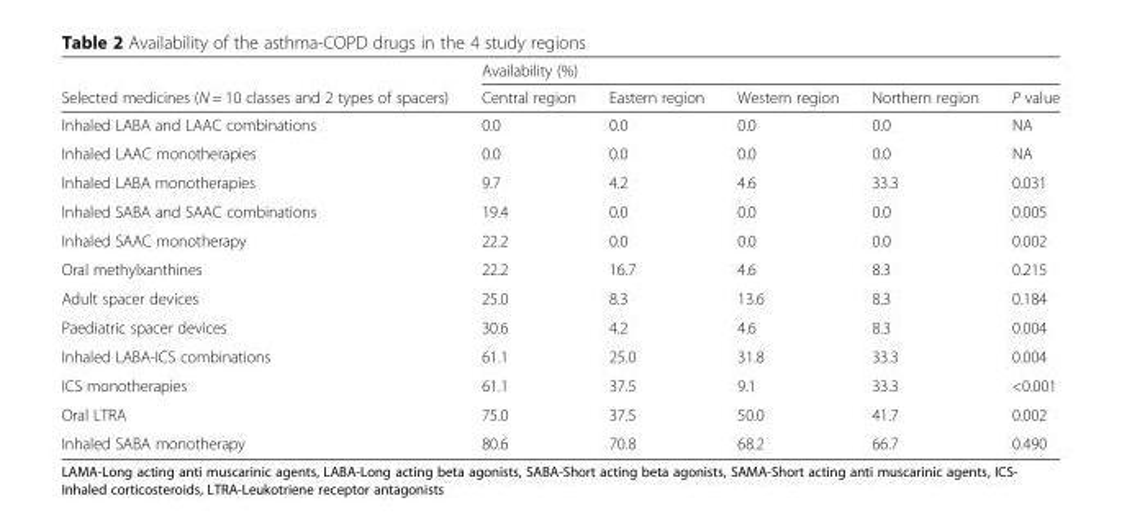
<table><thead><tr><td rowspan="2">Selected medicines (N = 10 classes and 2 types of spacers)</td><td colspan="5">Availability (%)</td></tr><tr><td>Central region</td><td>Eastern region</td><td>Western region</td><td>Northern region</td><td>P value</td></tr></thead><tbody><tr><td>Inhaled LABA and LAAC combinations</td><td>0.0</td><td>0.0</td><td>0.0</td><td>0.0</td><td>NA</td></tr><tr><td>Inhaled LAAC monotherapies</td><td>0.0</td><td>0.0</td><td>0.0</td><td>0.0</td><td>NA</td></tr><tr><td>Inhaled LABA monotherapies</td><td>9.7</td><td>4.2</td><td>4.6</td><td>33.3</td><td>0.031</td></tr><tr><td>Inhaled SABA and SAAC combinations</td><td>19.4</td><td>0.0</td><td>0.0</td><td>0.0</td><td>0.005</td></tr><tr><td>Inhaled SAAC monotherapy</td><td>22.2</td><td>0.0</td><td>0.0</td><td>0.0</td><td>0.002</td></tr><tr><td>Oral methylxanthines</td><td>22.2</td><td>16.7</td><td>4.6</td><td>8.3</td><td>0.215</td></tr><tr><td>Adult spacer devices</td><td>25.0</td><td>8.3</td><td>13.6</td><td>8.3</td><td>0.184</td></tr><tr><td>Paediatric spacer devices</td><td>30.6</td><td>4.2</td><td>4.6</td><td>8.3</td><td>0.004</td></tr><tr><td>Inhaled LABA-ICS combinations</td><td>61.1</td><td>25.0</td><td>31.8</td><td>33.3</td><td>0.004</td></tr><tr><td>ICS monotherapies</td><td>61.1</td><td>37.5</td><td>9.1</td><td>33.3</td><td>&lt;0.001</td></tr><tr><td>Oral LTRA</td><td>75.0</td><td>37.5</td><td>50.0</td><td>41.7</td><td>0.002</td></tr><tr><td>Inhaled SABA monotherapy</td><td>80.6</td><td>70.8</td><td>68.2</td><td>66.7</td><td>0.490</td></tr></tbody></table>